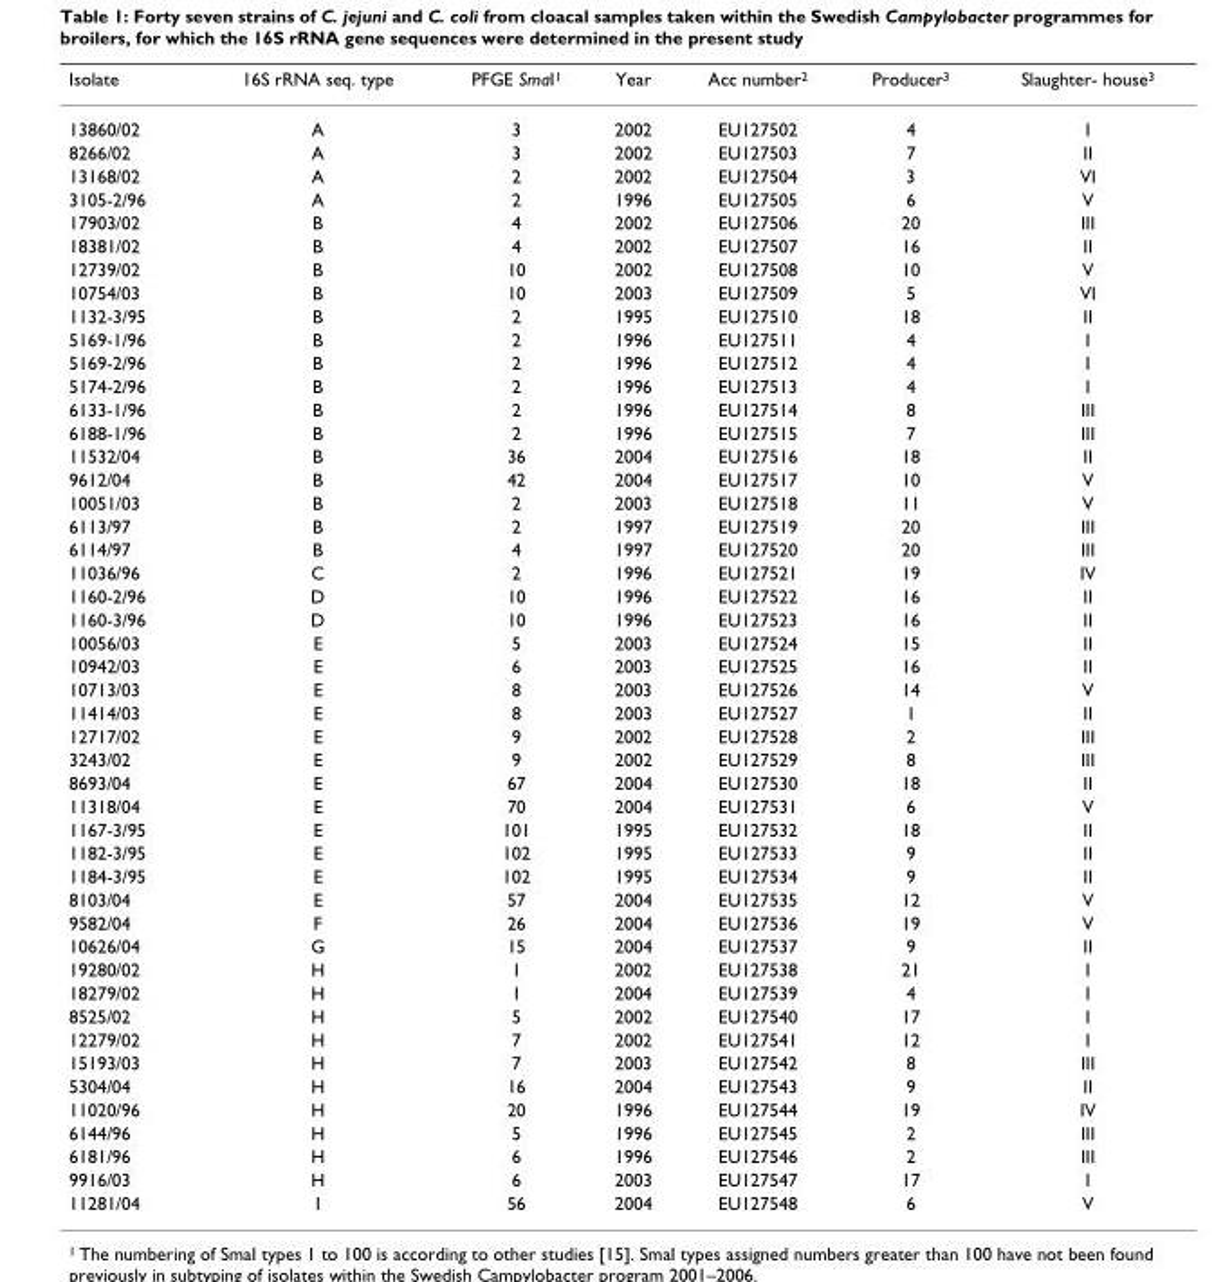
<table><thead><tr><td>Isolate</td><td>16S rRNA seq. type</td><td>PFGE SmaI<sup>1</sup></td><td>Year</td><td>Acc number<sup>2</sup></td><td>Producer<sup>3</sup></td><td>Slaughter- house<sup>3</sup></td></tr></thead><tbody><tr><td>13860/02</td><td>A</td><td>3</td><td>2002</td><td>EU127502</td><td>4</td><td>I</td></tr><tr><td>8266/02</td><td>A</td><td>3</td><td>2002</td><td>EU127503</td><td>7</td><td>II</td></tr><tr><td>13168/02</td><td>A</td><td>2</td><td>2002</td><td>EU127504</td><td>3</td><td>VI</td></tr><tr><td>3105-2/96</td><td>A</td><td>2</td><td>1996</td><td>EU127505</td><td>6</td><td>V</td></tr><tr><td>17903/02</td><td>B</td><td>4</td><td>2002</td><td>EU127506</td><td>20</td><td>III</td></tr><tr><td>18381/02</td><td>B</td><td>4</td><td>2002</td><td>EU127507</td><td>16</td><td>II</td></tr><tr><td>12739/02</td><td>B</td><td>10</td><td>2002</td><td>EU127508</td><td>10</td><td>V</td></tr><tr><td>10754/03</td><td>B</td><td>10</td><td>2003</td><td>EU127509</td><td>5</td><td>VI</td></tr><tr><td>1132-3/95</td><td>B</td><td>2</td><td>1995</td><td>EU127510</td><td>18</td><td>II</td></tr><tr><td>5169-1/96</td><td>B</td><td>2</td><td>1996</td><td>EU127511</td><td>4</td><td>I</td></tr><tr><td>5169-2/96</td><td>B</td><td>2</td><td>1996</td><td>EU127512</td><td>4</td><td>I</td></tr><tr><td>5174-2/96</td><td>B</td><td>2</td><td>1996</td><td>EU127513</td><td>4</td><td>I</td></tr><tr><td>6133-1/96</td><td>B</td><td>2</td><td>1996</td><td>EU127514</td><td>8</td><td>III</td></tr><tr><td>6188-1/96</td><td>B</td><td>2</td><td>1996</td><td>EU127515</td><td>7</td><td>III</td></tr><tr><td>11532/04</td><td>B</td><td>36</td><td>2004</td><td>EU127516</td><td>18</td><td>II</td></tr><tr><td>9612/04</td><td>B</td><td>42</td><td>2004</td><td>EU127517</td><td>10</td><td>V</td></tr><tr><td>10051/03</td><td>B</td><td>2</td><td>2003</td><td>EU127518</td><td>11</td><td>V</td></tr><tr><td>6113/97</td><td>B</td><td>2</td><td>1997</td><td>EU127519</td><td>20</td><td>III</td></tr><tr><td>6114/97</td><td>B</td><td>4</td><td>1997</td><td>EU127520</td><td>20</td><td>III</td></tr><tr><td>11036/96</td><td>C</td><td>2</td><td>1996</td><td>EU127521</td><td>19</td><td>IV</td></tr><tr><td>1160-2/96</td><td>D</td><td>10</td><td>1996</td><td>EU127522</td><td>16</td><td>II</td></tr><tr><td>1160-3/96</td><td>D</td><td>10</td><td>1996</td><td>EU127523</td><td>16</td><td>II</td></tr><tr><td>10056/03</td><td>E</td><td>5</td><td>2003</td><td>EU127524</td><td>15</td><td>II</td></tr><tr><td>10942/03</td><td>E</td><td>6</td><td>2003</td><td>EU127525</td><td>16</td><td>II</td></tr><tr><td>10713/03</td><td>E</td><td>8</td><td>2003</td><td>EU127526</td><td>14</td><td>V</td></tr><tr><td>11414/03</td><td>E</td><td>8</td><td>2003</td><td>EU127527</td><td>1</td><td>II</td></tr><tr><td>12717/02</td><td>E</td><td>9</td><td>2002</td><td>EU127528</td><td>2</td><td>III</td></tr><tr><td>3243/02</td><td>E</td><td>9</td><td>2002</td><td>EU127529</td><td>8</td><td>III</td></tr><tr><td>8693/04</td><td>E</td><td>67</td><td>2004</td><td>EU127530</td><td>18</td><td>II</td></tr><tr><td>11318/04</td><td>E</td><td>70</td><td>2004</td><td>EU127531</td><td>6</td><td>V</td></tr><tr><td>1167-3/95</td><td>E</td><td>101</td><td>1995</td><td>EU127532</td><td>18</td><td>II</td></tr><tr><td>1182-3/95</td><td>E</td><td>102</td><td>1995</td><td>EU127533</td><td>9</td><td>II</td></tr><tr><td>1184-3/95</td><td>E</td><td>102</td><td>1995</td><td>EU127534</td><td>9</td><td>II</td></tr><tr><td>8103/04</td><td>E</td><td>57</td><td>2004</td><td>EU127535</td><td>12</td><td>V</td></tr><tr><td>9582/04</td><td>F</td><td>26</td><td>2004</td><td>EU127536</td><td>19</td><td>V</td></tr><tr><td>10626/04</td><td>G</td><td>15</td><td>2004</td><td>EU127537</td><td>9</td><td>II</td></tr><tr><td>19280/02</td><td>H</td><td>1</td><td>2002</td><td>EU127538</td><td>21</td><td>I</td></tr><tr><td>18279/02</td><td>H</td><td>1</td><td>2004</td><td>EU127539</td><td>4</td><td>I</td></tr><tr><td>8525/02</td><td>H</td><td>5</td><td>2002</td><td>EU127540</td><td>17</td><td>I</td></tr><tr><td>12279/02</td><td>H</td><td>7</td><td>2002</td><td>EU127541</td><td>12</td><td>I</td></tr><tr><td>15193/03</td><td>H</td><td>7</td><td>2003</td><td>EU127542</td><td>8</td><td>III</td></tr><tr><td>5304/04</td><td>H</td><td>16</td><td>2004</td><td>EU127543</td><td>9</td><td>II</td></tr><tr><td>11020/96</td><td>H</td><td>20</td><td>1996</td><td>EU127544</td><td>19</td><td>IV</td></tr><tr><td>6144/96</td><td>H</td><td>5</td><td>1996</td><td>EU127545</td><td>2</td><td>III</td></tr><tr><td>6181/96</td><td>H</td><td>6</td><td>1996</td><td>EU127546</td><td>2</td><td>III</td></tr><tr><td>9916/03</td><td>H</td><td>6</td><td>2003</td><td>EU127547</td><td>17</td><td>I</td></tr><tr><td>11281/04</td><td>I</td><td>56</td><td>2004</td><td>EU127548</td><td>6</td><td>V</td></tr></tbody></table>